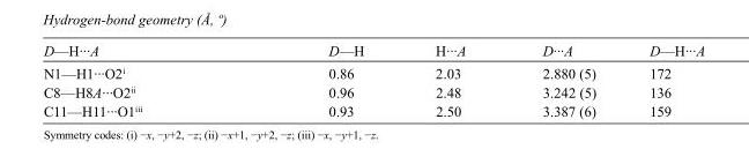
<table><tbody><tr><td>D—H···A</td><td>D—H</td><td>H···A</td><td>D···A</td><td>D—H···A</td></tr><tr><td>N1—H1···O2<sup>i</sup></td><td>0.86</td><td>2.03</td><td>2.880 (5)</td><td>172</td></tr><tr><td>C8—H8A···O2<sup>ii</sup></td><td>0.96</td><td>2.48</td><td>3.242 (5)</td><td>136</td></tr><tr><td>C11—H11···O1<sup>iii</sup></td><td>0.93</td><td>2.50</td><td>3.387 (6)</td><td>159</td></tr></tbody></table>